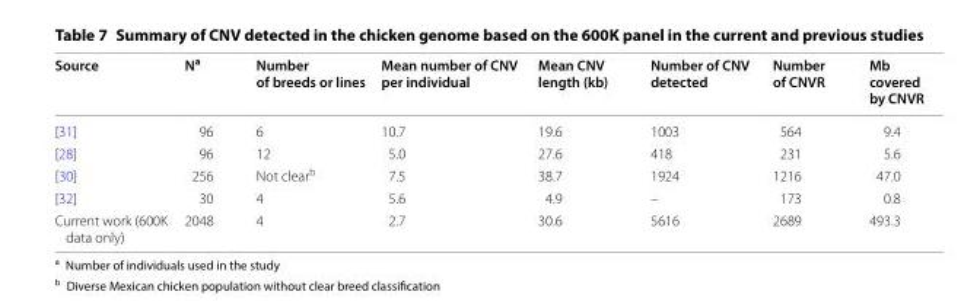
<table><thead><tr><td>Source</td><td>N<sup>a</sup></td><td>Number of breeds or lines</td><td>Mean number of CNV per individual</td><td>Mean CNV length (kb)</td><td>Number of CNV detected</td><td>Number of CNVR</td><td>Mb covered by CNVR</td></tr></thead><tbody><tr><td>[31]</td><td>96</td><td>6</td><td>10.7</td><td>19.6</td><td>1003</td><td>564</td><td>9.4</td></tr><tr><td>[28]</td><td>96</td><td>12</td><td>5.0</td><td>27.6</td><td>418</td><td>231</td><td>5.6</td></tr><tr><td>[30]</td><td>256</td><td>Not clear<sup>b</sup></td><td>7.5</td><td>38.7</td><td>1924</td><td>1216</td><td>47.0</td></tr><tr><td>[32]</td><td>30</td><td>4</td><td>5.6</td><td>4.9</td><td>–</td><td>173</td><td>0.8</td></tr><tr><td>Current work (600K data only)</td><td>2048</td><td>4</td><td>2.7</td><td>30.6</td><td>5616</td><td>2689</td><td>493.3</td></tr></tbody></table>